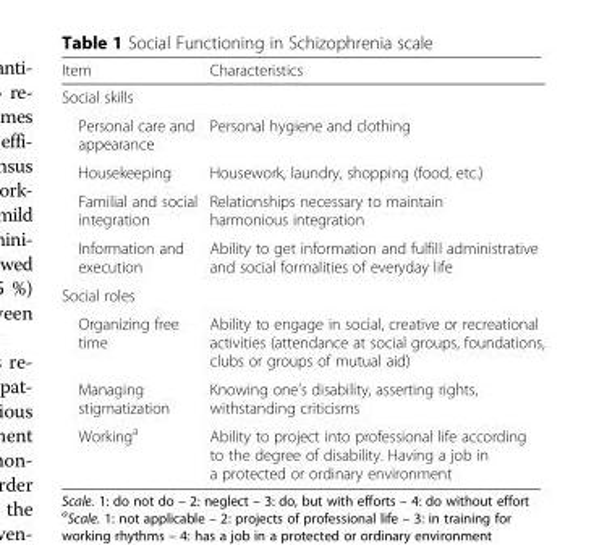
<table><thead><tr><td>Item</td><td>Characteristics</td></tr></thead><tbody><tr><td colspan="2">Social skills</td></tr><tr><td>Personal care and appearance</td><td>Personal hygiene and clothing</td></tr><tr><td>Housekeeping</td><td>Housework, laundry, shopping (food, etc.)</td></tr><tr><td>Familial and social integration</td><td>Relationships necessary to maintain harmonious integration</td></tr><tr><td>Information and execution</td><td>Ability to get information and fulfill administrative and social formalities of everyday life</td></tr><tr><td colspan="2">Social roles</td></tr><tr><td>Organizing free time</td><td>Ability to engage in social, creative or recreational activities (attendance at social groups, foundations, clubs or groups of mutual aid)</td></tr><tr><td>Managing stigmatization</td><td>Knowing one’s disability, asserting rights, withstanding criticisms</td></tr><tr><td>Working<sup>a</sup></td><td>Ability to project into professional life according to the degree of disability. Having a job in a protected or ordinary environment</td></tr></tbody></table>